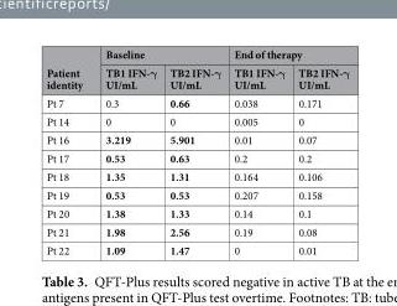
<table><thead><tr><td rowspan="2">Patient identity</td><td colspan="2">Baseline</td><td colspan="2">End of therapy</td></tr><tr><td>TB1 IFN-γ UI/mL</td><td>TB2 IFN-γ UI/mL</td><td>TB1 IFN-γ UI/mL</td><td>TB2 IFN-γ UI/mL</td></tr></thead><tbody><tr><td>Pt 7</td><td>0.3</td><td>0.66</td><td>0.038</td><td>0.171</td></tr><tr><td>Pt 14</td><td>0</td><td>0</td><td>0.005</td><td>0</td></tr><tr><td>Pt 16</td><td>3.219</td><td>5.901</td><td>0.01</td><td>0.07</td></tr><tr><td>Pt 17</td><td>0.53</td><td>0.63</td><td>0.2</td><td>0.2</td></tr><tr><td>Pt 18</td><td>1.35</td><td>1.31</td><td>0.164</td><td>0.106</td></tr><tr><td>Pt 19</td><td>0.53</td><td>0.53</td><td>0.207</td><td>0.158</td></tr><tr><td>Pt 20</td><td>1.38</td><td>1.33</td><td>0.14</td><td>0.1</td></tr><tr><td>Pt 21</td><td>1.98</td><td>2.56</td><td>0.19</td><td>0.08</td></tr><tr><td>Pt 22</td><td>1.09</td><td>1.47</td><td>0</td><td>0.01</td></tr></tbody></table>